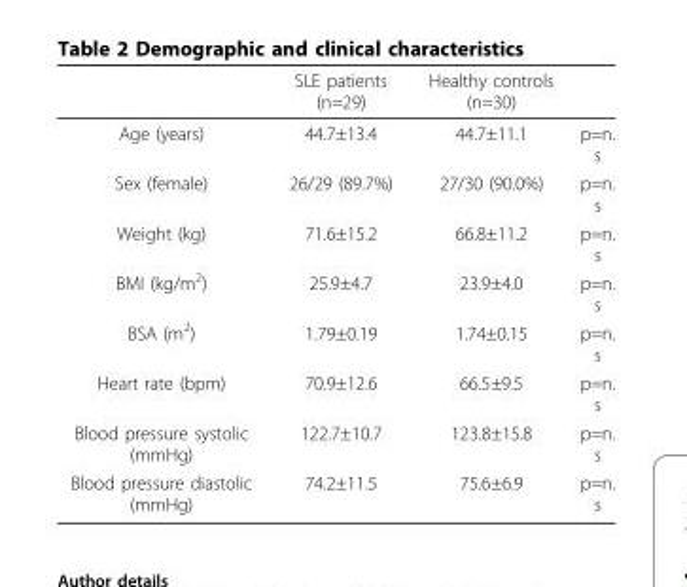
<table><thead><tr><td></td><td>SLE patients (n=29)</td><td>Healthy controls (n=30)</td><td></td></tr></thead><tbody><tr><td>Age (years)</td><td>44.7±13.4</td><td>44.7±11.1</td><td>p=n. s</td></tr><tr><td>Sex (female)</td><td>26/29 (89.7%)</td><td>27/30 (90.0%)</td><td>p=n. s</td></tr><tr><td>Weight (kg)</td><td>71.6±15.2</td><td>66.8±11.2</td><td>p=n. s</td></tr><tr><td>BMI (kg/m<sup>2</sup>)</td><td>25.9±4.7</td><td>23.9±4.0</td><td>p=n. s</td></tr><tr><td>BSA (m<sup>2</sup>)</td><td>1.79±0.19</td><td>1.74±0.15</td><td>p=n. s</td></tr><tr><td>Heart rate (bpm)</td><td>70.9±12.6</td><td>66.5±9.5</td><td>p=n. s</td></tr><tr><td>Blood pressure systolic (mmHg)</td><td>122.7±10.7</td><td>123.8±15.8</td><td>p=n. s</td></tr><tr><td>Blood pressure diastolic (mmHg)</td><td>74.2±11.5</td><td>75.6±6.9</td><td>p=n. s</td></tr></tbody></table>